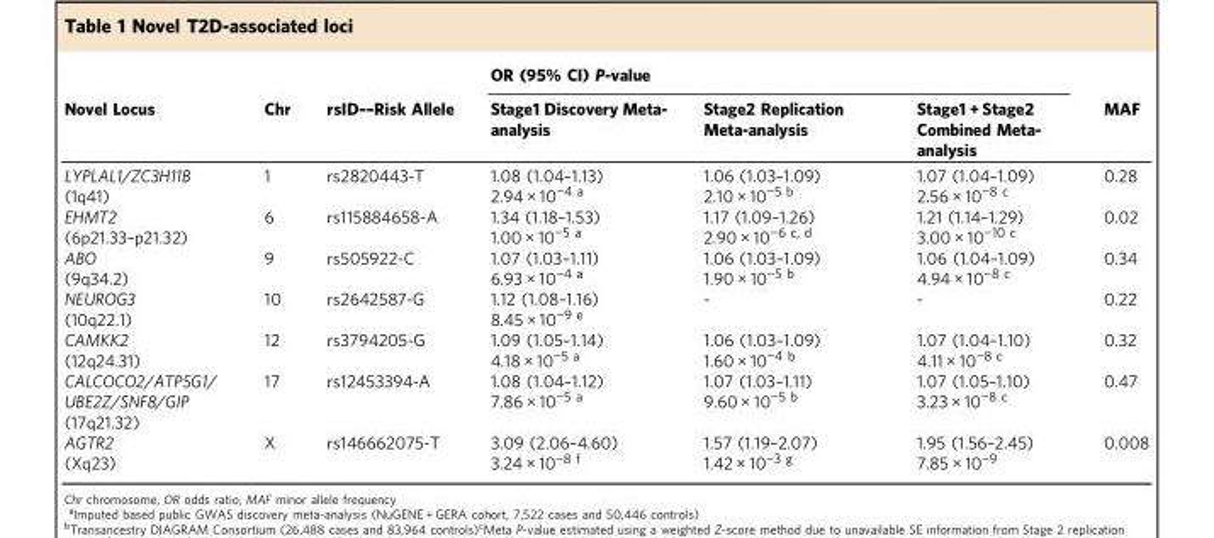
<table><thead><tr><td rowspan="2">Novel Locus</td><td rowspan="2">Chr</td><td rowspan="2">rsID––Risk Allele</td><td colspan="3">OR (95% CI) P-value</td><td rowspan="2">MAF</td></tr><tr><td>Stage1 Discovery Meta- analysis</td><td>Stage2 Replication Meta-analysis</td><td>Stage1 + Stage2 Combined Meta- analysis</td></tr></thead><tbody><tr><td>LYPLAL1/ZC3H11B (1q41)</td><td>1</td><td>rs2820443-T</td><td>1.08 (1.04–1.13) 2.94 × 10<sup>−4 a</sup></td><td>1.06 (1.03–1.09) 2.10 × 10<sup>−5 b</sup></td><td>1.07 (1.04–1.09) 2.56 × 10<sup>−8 c</sup></td><td>0.28</td></tr><tr><td>EHMT2 (6p21.33–p21.32)</td><td>6</td><td>rs115884658-A</td><td>1.34 (1.18–1.53) 1.00 × 10<sup>−5 a</sup></td><td>1.17 (1.09–1.26) 2.90 × 10<sup>−6 c, d</sup></td><td>1.21 (1.14–1.29) 3.00 × 10<sup>−10 c</sup></td><td>0.02</td></tr><tr><td>ABO (9q34.2)</td><td>9</td><td>rs505922-C</td><td>1.07 (1.03–1.11) 6.93 × 10<sup>−4 a</sup></td><td>1.06 (1.03–1.09) 1.90 × 10<sup>−5 b</sup></td><td>1.06 (1.04–1.09) 4.94 × 10<sup>−8 c</sup></td><td>0.34</td></tr><tr><td>NEUROG3 (10q22.1)</td><td>10</td><td>rs2642587-G</td><td>1.12 (1.08–1.16) 8.45 × 10<sup>−9 e</sup></td><td>-</td><td>-</td><td>0.22</td></tr><tr><td>CAMKK2 (12q24.31)</td><td>12</td><td>rs3794205-G</td><td>1.09 (1.05–1.14) 4.18 × 10<sup>−5 a</sup></td><td>1.06 (1.03–1.09) 1.60 × 10<sup>−4 b</sup></td><td>1.07 (1.04–1.10) 4.11 × 10<sup>−8 c</sup></td><td>0.32</td></tr><tr><td>CALCOCO2/ATP5G1/ UBE2Z/SNF8/GIP (17q21.32)</td><td>17</td><td>rs12453394-A</td><td>1.08 (1.04–1.12) 7.86 × 10<sup>−5 a</sup></td><td>1.07 (1.03–1.11) 9.60 × 10<sup>−5 b</sup></td><td>1.07 (1.05–1.10) 3.23 × 10<sup>−8 c</sup></td><td>0.47</td></tr><tr><td>AGTR2 (Xq23)</td><td>X</td><td>rs146662075-T</td><td>3.09 (2.06–4.60) 3.24 × 10<sup>−8 f</sup></td><td>1.57 (1.19–2.07) 1.42 × 10<sup>−3 g</sup></td><td>1.95 (1.56–2.45) 7.85 × 10<sup>−9</sup></td><td>0.008</td></tr></tbody></table>